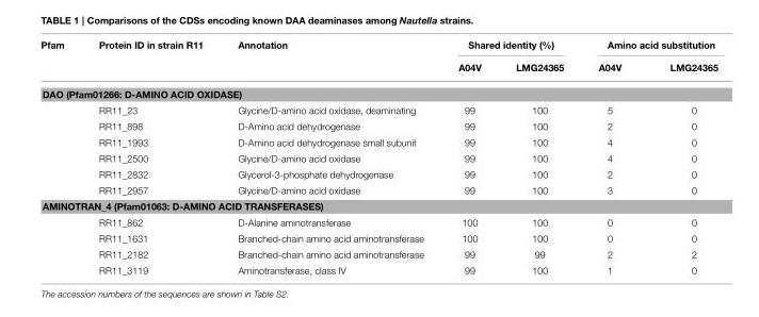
<table><thead><tr><td rowspan="2">Pfam</td><td rowspan="2">Protein ID in strain R11</td><td rowspan="2">Annotation</td><td colspan="2">Shared identity (%)</td><td colspan="2">Amino acid substitution</td></tr><tr><td>A04V</td><td>LMG24365</td><td>A04V</td><td>LMG24365</td></tr></thead><tbody><tr><td colspan="7">DAO (Pfam01266: D-AMINO ACID OXIDASE)</td></tr><tr><td></td><td>RR11_23</td><td>Glycine/D-amino acid oxidase, deaminating</td><td>99</td><td>100</td><td>5</td><td>0</td></tr><tr><td></td><td>RR11_898</td><td>D-Amino acid dehydrogenase</td><td>99</td><td>100</td><td>2</td><td>0</td></tr><tr><td></td><td>RR11_1993</td><td>D-Amino acid dehydrogenase small subunit</td><td>99</td><td>100</td><td>4</td><td>0</td></tr><tr><td></td><td>RR11_2500</td><td>Glycine/D-amino acid oxidase</td><td>99</td><td>100</td><td>4</td><td>0</td></tr><tr><td></td><td>RR11_2832</td><td>Glycerol-3-phosphate dehydrogenase</td><td>99</td><td>100</td><td>2</td><td>0</td></tr><tr><td></td><td>RR11_2957</td><td>Glycine/D-amino acid oxidase</td><td>99</td><td>100</td><td>3</td><td>0</td></tr><tr><td colspan="7">AMINOTRAN_4 (Pfam01063: D-AMINO ACID TRANSFERASES)</td></tr><tr><td></td><td>RR11_862</td><td>D-Alanine aminotransferase</td><td>100</td><td>100</td><td>0</td><td>0</td></tr><tr><td></td><td>RR11_1631</td><td>Branched-chain amino acid aminotransferase</td><td>100</td><td>100</td><td>0</td><td>0</td></tr><tr><td></td><td>RR11_2182</td><td>Branched-chain amino acid aminotransferase</td><td>99</td><td>99</td><td>2</td><td>2</td></tr><tr><td></td><td>RR11_3119</td><td>Aminotransferase, class IV</td><td>99</td><td>100</td><td>1</td><td>0</td></tr></tbody></table>